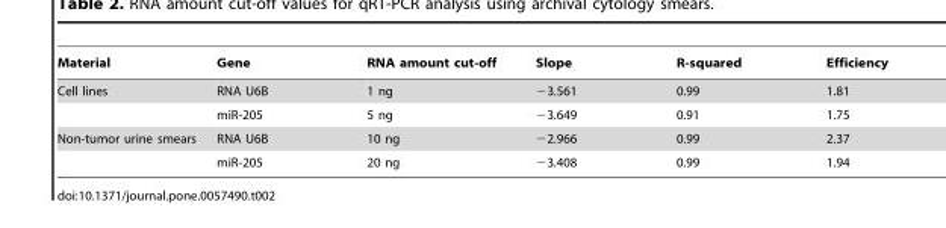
<table><thead><tr><td>Material</td><td>Gene</td><td>RNA amount cut-off</td><td>Slope</td><td>R-squared</td><td>Efficiency</td></tr></thead><tbody><tr><td rowspan="2">Cell lines</td><td>RNA U6B</td><td>1 ng</td><td>−3.561</td><td>0.99</td><td>1.81</td></tr><tr><td>miR-205</td><td>5 ng</td><td>−3.649</td><td>0.91</td><td>1.75</td></tr><tr><td rowspan="2">Non-tumor urine smears</td><td>RNA U6B</td><td>10 ng</td><td>−2.966</td><td>0.99</td><td>2.37</td></tr><tr><td>miR-205</td><td>20 ng</td><td>−3.408</td><td>0.99</td><td>1.94</td></tr></tbody></table>